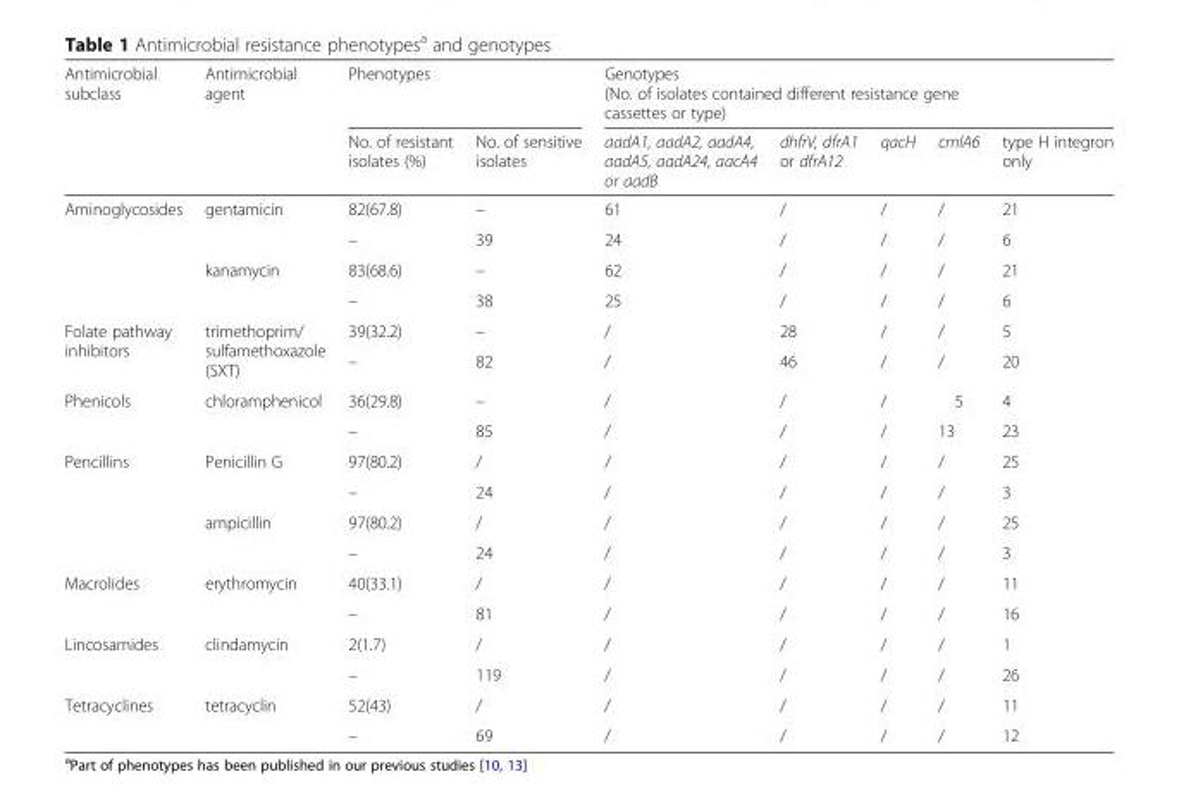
<table><thead><tr><td rowspan="2">Antimicrobial subclass</td><td rowspan="2">Antimicrobial agent</td><td colspan="2">Phenotypes</td><td colspan="5">Genotypes (No. of isolates contained different resistance gene cassettes or type)</td></tr><tr><td>No. of resistant isolates (%)</td><td>No. of sensitive isolates</td><td>aadA1, aadA2, aadA4, aadA5, aadA24, aacA4 or aadB</td><td>dhfrV, dfrA1 or dfrA12</td><td>qacH</td><td>cmlA6</td><td>type H integron only</td></tr></thead><tbody><tr><td rowspan="4">Aminoglycosides</td><td rowspan="2">gentamicin</td><td>82(67.8)</td><td>–</td><td>61</td><td>/</td><td>/</td><td>/</td><td>21</td></tr><tr><td>–</td><td>39</td><td>24</td><td>/</td><td>/</td><td>/</td><td>6</td></tr><tr><td rowspan="2">kanamycin</td><td>83(68.6)</td><td>–</td><td>62</td><td>/</td><td>/</td><td>/</td><td>21</td></tr><tr><td>–</td><td>38</td><td>25</td><td>/</td><td>/</td><td>/</td><td>6</td></tr><tr><td rowspan="2">Folate pathway inhibitors</td><td rowspan="2">trimethoprim/ sulfamethoxazole (SXT)</td><td>39(32.2)</td><td>–</td><td>/</td><td>28</td><td>/</td><td>/</td><td>5</td></tr><tr><td>–</td><td>82</td><td>/</td><td>46</td><td>/</td><td>/</td><td>20</td></tr><tr><td rowspan="2">Phenicols</td><td rowspan="2">chloramphenicol</td><td>36(29.8)</td><td>–</td><td>/</td><td>/</td><td>/</td><td>5</td><td>4</td></tr><tr><td>–</td><td>85</td><td>/</td><td>/</td><td>/</td><td>13</td><td>23</td></tr><tr><td rowspan="4">Pencillins</td><td rowspan="2">Penicillin G</td><td>97(80.2)</td><td>/</td><td>/</td><td>/</td><td>/</td><td>/</td><td>25</td></tr><tr><td>–</td><td>24</td><td>/</td><td>/</td><td>/</td><td>/</td><td>3</td></tr><tr><td rowspan="2">ampicillin</td><td>97(80.2)</td><td>/</td><td>/</td><td>/</td><td>/</td><td>/</td><td>25</td></tr><tr><td>–</td><td>24</td><td>/</td><td>/</td><td>/</td><td>/</td><td>3</td></tr><tr><td rowspan="2">Macrolides</td><td rowspan="2">erythromycin</td><td>40(33.1)</td><td>/</td><td>/</td><td>/</td><td>/</td><td>/</td><td>11</td></tr><tr><td>–</td><td>81</td><td>/</td><td>/</td><td>/</td><td>/</td><td>16</td></tr><tr><td rowspan="2">Lincosamides</td><td rowspan="2">clindamycin</td><td>2(1.7)</td><td>/</td><td>/</td><td>/</td><td>/</td><td>/</td><td>1</td></tr><tr><td>–</td><td>119</td><td>/</td><td>/</td><td>/</td><td>/</td><td>26</td></tr><tr><td rowspan="2">Tetracyclines</td><td rowspan="2">tetracyclin</td><td>52(43)</td><td>/</td><td>/</td><td>/</td><td>/</td><td>/</td><td>11</td></tr><tr><td>–</td><td>69</td><td>/</td><td>/</td><td>/</td><td>/</td><td>12</td></tr></tbody></table>